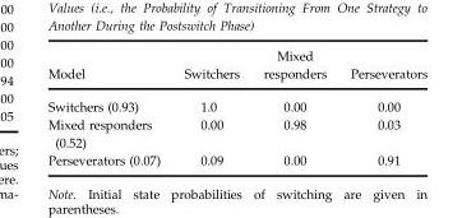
<table><thead><tr><td>Model</td><td>Switchers</td><td>Mixed responders</td><td>Perseverators</td></tr></thead><tbody><tr><td>Switchers (0.93)</td><td>1.0</td><td>0.00</td><td>0.00</td></tr><tr><td>Mixed responders (0.52)</td><td>0.00</td><td>0.98</td><td>0.03</td></tr><tr><td>Perseverators (0.07)</td><td>0.09</td><td>0.00</td><td>0.91</td></tr></tbody></table>